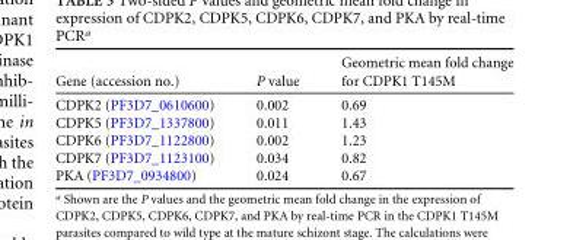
<table><thead><tr><td>Gene (accession no.)</td><td>P value</td><td>Geometric mean fold change for CDPK1 T145M</td></tr></thead><tbody><tr><td>CDPK2 (PF3D7_0610600)</td><td>0.002</td><td>0.69</td></tr><tr><td>CDPK5 (PF3D7_1337800)</td><td>0.011</td><td>1.43</td></tr><tr><td>CDPK6 (PF3D7_1122800)</td><td>0.002</td><td>1.23</td></tr><tr><td>CDPK7 (PF3D7_1123100)</td><td>0.034</td><td>0.82</td></tr><tr><td>PKA (PF3D7_0934800)</td><td>0.024</td><td>0.67</td></tr></tbody></table>